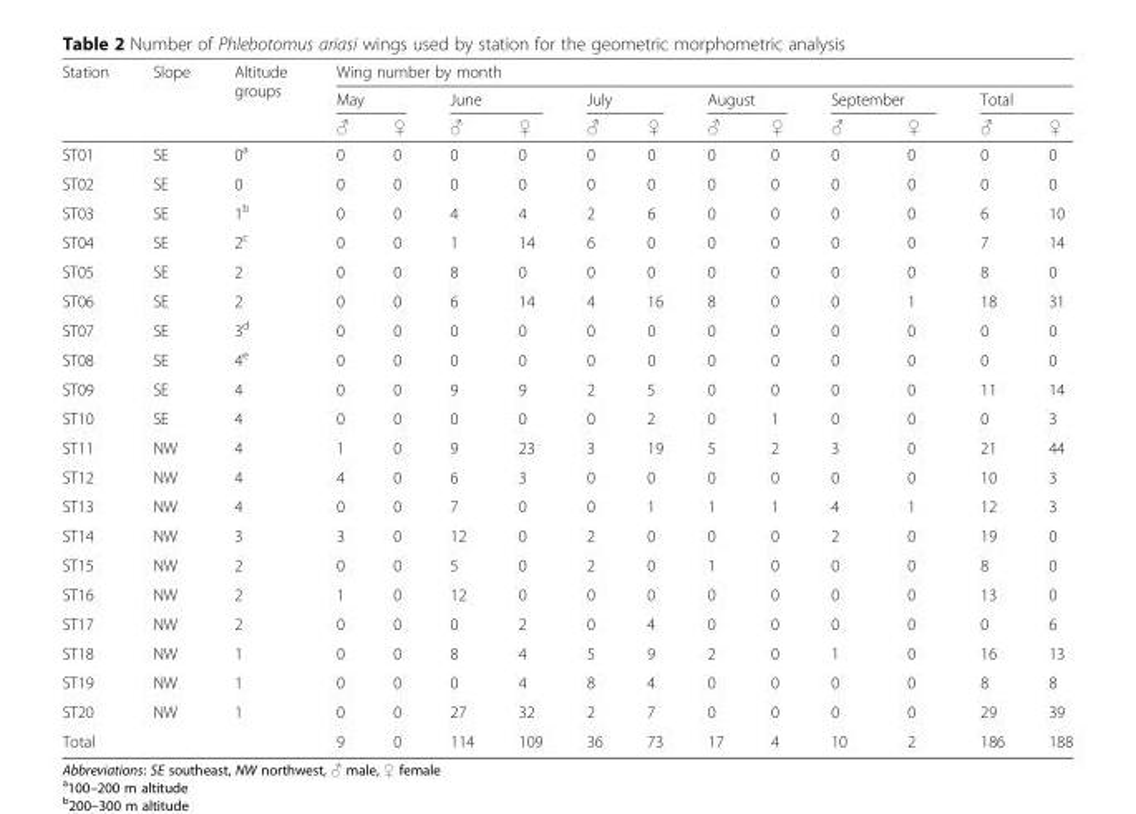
<table><thead><tr><td rowspan="3">Station</td><td rowspan="3">Slope</td><td rowspan="3">Altitude groups</td><td colspan="12">Wing number by month</td></tr><tr><td colspan="2">May</td><td colspan="2">June</td><td colspan="2">July</td><td colspan="2">August</td><td colspan="2">September</td><td colspan="2">Total</td></tr><tr><td>♂</td><td>♀</td><td>♂</td><td>♀</td><td>♂</td><td>♀</td><td>♂</td><td>♀</td><td>♂</td><td>♀</td><td>♂</td><td>♀</td></tr></thead><tbody><tr><td>ST01</td><td>SE</td><td>0<sup>a</sup></td><td>0</td><td>0</td><td>0</td><td>0</td><td>0</td><td>0</td><td>0</td><td>0</td><td>0</td><td>0</td><td>0</td><td>0</td></tr><tr><td>ST02</td><td>SE</td><td>0</td><td>0</td><td>0</td><td>0</td><td>0</td><td>0</td><td>0</td><td>0</td><td>0</td><td>0</td><td>0</td><td>0</td><td>0</td></tr><tr><td>ST03</td><td>SE</td><td>1<sup>b</sup></td><td>0</td><td>0</td><td>4</td><td>4</td><td>2</td><td>6</td><td>0</td><td>0</td><td>0</td><td>0</td><td>6</td><td>10</td></tr><tr><td>ST04</td><td>SE</td><td>2<sup>c</sup></td><td>0</td><td>0</td><td>1</td><td>14</td><td>6</td><td>0</td><td>0</td><td>0</td><td>0</td><td>0</td><td>7</td><td>14</td></tr><tr><td>ST05</td><td>SE</td><td>2</td><td>0</td><td>0</td><td>8</td><td>0</td><td>0</td><td>0</td><td>0</td><td>0</td><td>0</td><td>0</td><td>8</td><td>0</td></tr><tr><td>ST06</td><td>SE</td><td>2</td><td>0</td><td>0</td><td>6</td><td>14</td><td>4</td><td>16</td><td>8</td><td>0</td><td>0</td><td>1</td><td>18</td><td>31</td></tr><tr><td>ST07</td><td>SE</td><td>3<sup>d</sup></td><td>0</td><td>0</td><td>0</td><td>0</td><td>0</td><td>0</td><td>0</td><td>0</td><td>0</td><td>0</td><td>0</td><td>0</td></tr><tr><td>ST08</td><td>SE</td><td>4<sup>e</sup></td><td>0</td><td>0</td><td>0</td><td>0</td><td>0</td><td>0</td><td>0</td><td>0</td><td>0</td><td>0</td><td>0</td><td>0</td></tr><tr><td>ST09</td><td>SE</td><td>4</td><td>0</td><td>0</td><td>9</td><td>9</td><td>2</td><td>5</td><td>0</td><td>0</td><td>0</td><td>0</td><td>11</td><td>14</td></tr><tr><td>ST10</td><td>SE</td><td>4</td><td>0</td><td>0</td><td>0</td><td>0</td><td>0</td><td>2</td><td>0</td><td>1</td><td>0</td><td>0</td><td>0</td><td>3</td></tr><tr><td>ST11</td><td>NW</td><td>4</td><td>1</td><td>0</td><td>9</td><td>23</td><td>3</td><td>19</td><td>5</td><td>2</td><td>3</td><td>0</td><td>21</td><td>44</td></tr><tr><td>ST12</td><td>NW</td><td>4</td><td>4</td><td>0</td><td>6</td><td>3</td><td>0</td><td>0</td><td>0</td><td>0</td><td>0</td><td>0</td><td>10</td><td>3</td></tr><tr><td>ST13</td><td>NW</td><td>4</td><td>0</td><td>0</td><td>7</td><td>0</td><td>0</td><td>1</td><td>1</td><td>1</td><td>4</td><td>1</td><td>12</td><td>3</td></tr><tr><td>ST14</td><td>NW</td><td>3</td><td>3</td><td>0</td><td>12</td><td>0</td><td>2</td><td>0</td><td>0</td><td>0</td><td>2</td><td>0</td><td>19</td><td>0</td></tr><tr><td>ST15</td><td>NW</td><td>2</td><td>0</td><td>0</td><td>5</td><td>0</td><td>2</td><td>0</td><td>1</td><td>0</td><td>0</td><td>0</td><td>8</td><td>0</td></tr><tr><td>ST16</td><td>NW</td><td>2</td><td>1</td><td>0</td><td>12</td><td>0</td><td>0</td><td>0</td><td>0</td><td>0</td><td>0</td><td>0</td><td>13</td><td>0</td></tr><tr><td>ST17</td><td>NW</td><td>2</td><td>0</td><td>0</td><td>0</td><td>2</td><td>0</td><td>4</td><td>0</td><td>0</td><td>0</td><td>0</td><td>0</td><td>6</td></tr><tr><td>ST18</td><td>NW</td><td>1</td><td>0</td><td>0</td><td>8</td><td>4</td><td>5</td><td>9</td><td>2</td><td>0</td><td>1</td><td>0</td><td>16</td><td>13</td></tr><tr><td>ST19</td><td>NW</td><td>1</td><td>0</td><td>0</td><td>0</td><td>4</td><td>8</td><td>4</td><td>0</td><td>0</td><td>0</td><td>0</td><td>8</td><td>8</td></tr><tr><td>ST20</td><td>NW</td><td>1</td><td>0</td><td>0</td><td>27</td><td>32</td><td>2</td><td>7</td><td>0</td><td>0</td><td>0</td><td>0</td><td>29</td><td>39</td></tr><tr><td colspan="3">Total</td><td>9</td><td>0</td><td>114</td><td>109</td><td>36</td><td>73</td><td>17</td><td>4</td><td>10</td><td>2</td><td>186</td><td>188</td></tr></tbody></table>